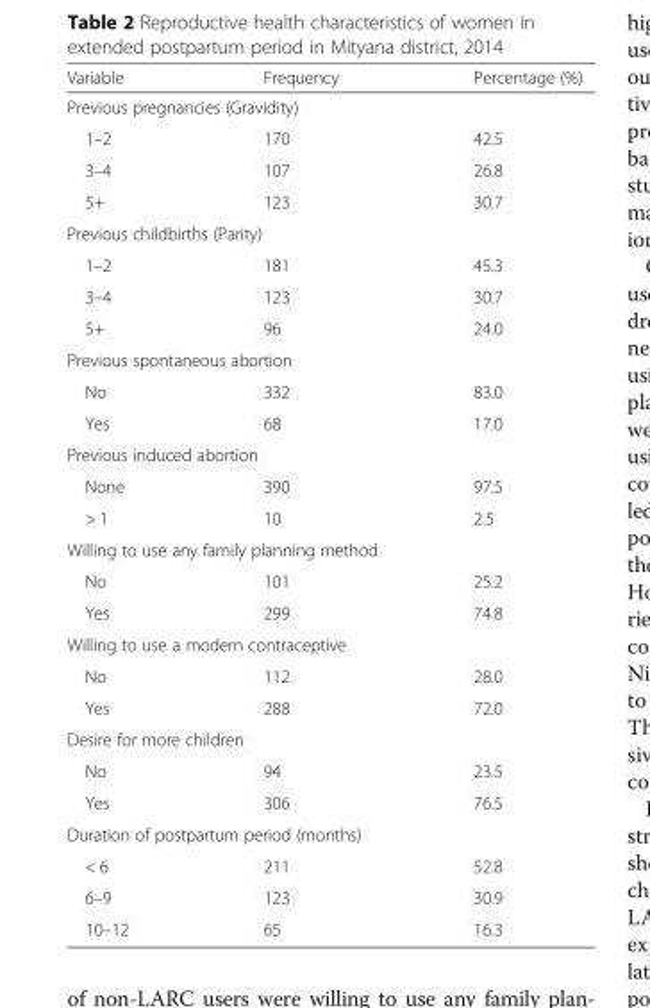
<table><thead><tr><td>Variable</td><td>Frequency</td><td>Percentage (%)</td></tr></thead><tbody><tr><td colspan="3">Previous pregnancies (Gravidity)</td></tr><tr><td>1–2</td><td>170</td><td>42.5</td></tr><tr><td>3–4</td><td>107</td><td>26.8</td></tr><tr><td>5+</td><td>123</td><td>30.7</td></tr><tr><td colspan="3">Previous childbirths (Parity)</td></tr><tr><td>1–2</td><td>181</td><td>45.3</td></tr><tr><td>3–4</td><td>123</td><td>30.7</td></tr><tr><td>5+</td><td>96</td><td>24.0</td></tr><tr><td colspan="3">Previous spontaneous abortion</td></tr><tr><td>No</td><td>332</td><td>83.0</td></tr><tr><td>Yes</td><td>68</td><td>17.0</td></tr><tr><td colspan="3">Previous induced abortion</td></tr><tr><td>None</td><td>390</td><td>97.5</td></tr><tr><td>&gt; 1</td><td>10</td><td>2.5</td></tr><tr><td colspan="3">Willing to use any family planning method</td></tr><tr><td>No</td><td>101</td><td>25.2</td></tr><tr><td>Yes</td><td>299</td><td>74.8</td></tr><tr><td colspan="3">Willing to use a modern contraceptive</td></tr><tr><td>No</td><td>112</td><td>28.0</td></tr><tr><td>Yes</td><td>288</td><td>72.0</td></tr><tr><td colspan="3">Desire for more children</td></tr><tr><td>No</td><td>94</td><td>23.5</td></tr><tr><td>Yes</td><td>306</td><td>76.5</td></tr><tr><td colspan="3">Duration of postpartum period (months)</td></tr><tr><td>&lt; 6</td><td>211</td><td>52.8</td></tr><tr><td>6–9</td><td>123</td><td>30.9</td></tr><tr><td>10–12</td><td>65</td><td>16.3</td></tr></tbody></table>